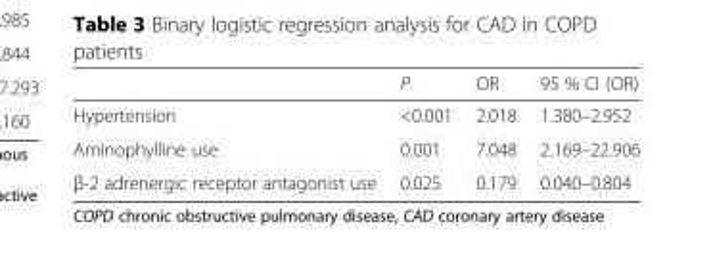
<table><thead><tr><td></td><td>P</td><td>OR</td><td>95 % CI (OR)</td></tr></thead><tbody><tr><td>Hypertension</td><td>&lt;0.001</td><td>2.018</td><td>1.380–2.952</td></tr><tr><td>Aminophylline use</td><td>0.001</td><td>7.048</td><td>2.169–22.906</td></tr><tr><td>β-2 adrenergic receptor antagonist use</td><td>0.025</td><td>0.179</td><td>0.040–0.804</td></tr></tbody></table>